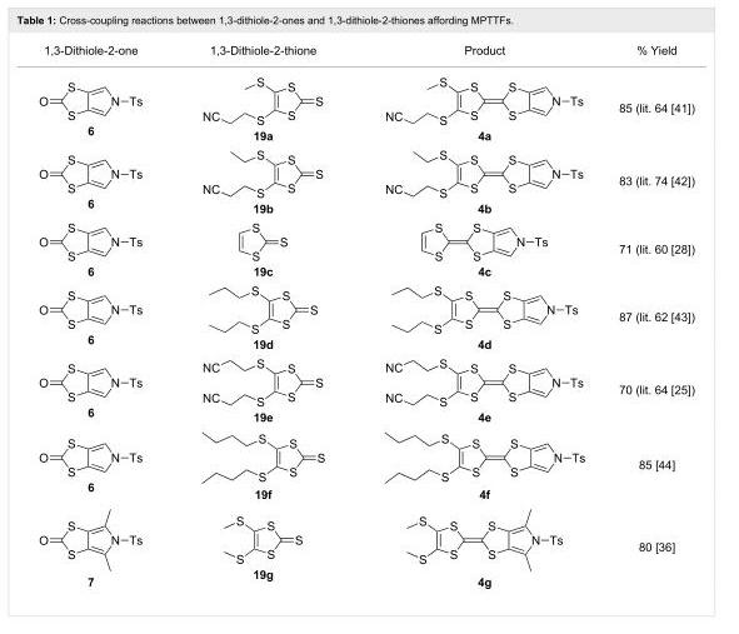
<table><tbody><tr><td>1,3-Dithiole-2-one</td><td>1,3-Dithiole-2-thione</td><td>Product</td><td>% Yield</td></tr><tr><td>6</td><td>19a</td><td>4a</td><td>85 (lit. 64 [41])</td></tr><tr><td>6</td><td>19b</td><td>4b</td><td>83 (lit. 74 [42])</td></tr><tr><td>6</td><td>19c</td><td>4c</td><td>71 (lit. 60 [28])</td></tr><tr><td>6</td><td>19d</td><td>4d</td><td>87 (lit. 62 [43])</td></tr><tr><td>6</td><td>19e</td><td>4e</td><td>70 (lit. 64 [25])</td></tr><tr><td>6</td><td>19f</td><td>4f</td><td>85 [44]</td></tr><tr><td>7</td><td>19g</td><td>4g</td><td>80 [36]</td></tr></tbody></table>